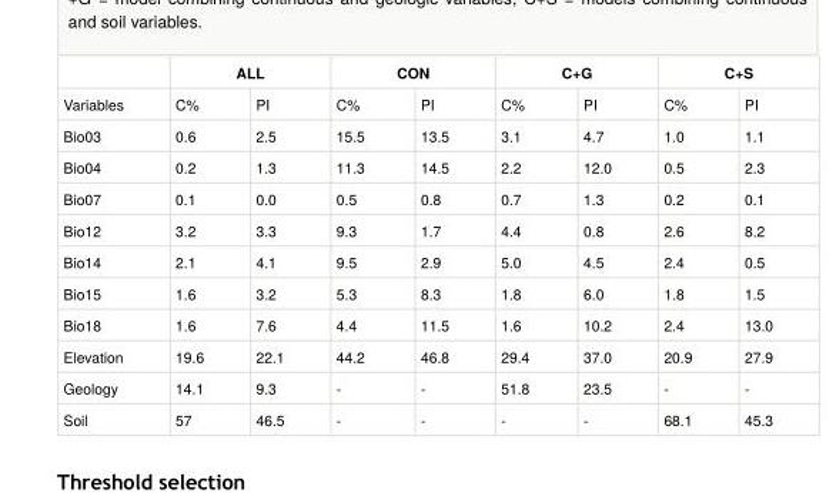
<table><thead><tr><td rowspan="2">Variables</td><td colspan="2">ALL</td><td colspan="2">CON</td><td colspan="2">C+G</td><td colspan="2">C+S</td></tr><tr><td>C%</td><td>PI</td><td>C%</td><td>PI</td><td>C%</td><td>PI</td><td>C%</td><td>PI</td></tr></thead><tbody><tr><td>Bio03</td><td>0.6</td><td>2.5</td><td>15.5</td><td>13.5</td><td>3.1</td><td>4.7</td><td>1.0</td><td>1.1</td></tr><tr><td>Bio04</td><td>0.2</td><td>1.3</td><td>11.3</td><td>14.5</td><td>2.2</td><td>12.0</td><td>0.5</td><td>2.3</td></tr><tr><td>Bio07</td><td>0.1</td><td>0.0</td><td>0.5</td><td>0.8</td><td>0.7</td><td>1.3</td><td>0.2</td><td>0.1</td></tr><tr><td>Bio12</td><td>3.2</td><td>3.3</td><td>9.3</td><td>1.7</td><td>4.4</td><td>0.8</td><td>2.6</td><td>8.2</td></tr><tr><td>Bio14</td><td>2.1</td><td>4.1</td><td>9.5</td><td>2.9</td><td>5.0</td><td>4.5</td><td>2.4</td><td>0.5</td></tr><tr><td>Bio15</td><td>1.6</td><td>3.2</td><td>5.3</td><td>8.3</td><td>1.8</td><td>6.0</td><td>1.8</td><td>1.5</td></tr><tr><td>Bio18</td><td>1.6</td><td>7.6</td><td>4.4</td><td>11.5</td><td>1.6</td><td>10.2</td><td>2.4</td><td>13.0</td></tr><tr><td>Elevation</td><td>19.6</td><td>22.1</td><td>44.2</td><td>46.8</td><td>29.4</td><td>37.0</td><td>20.9</td><td>27.9</td></tr><tr><td>Geology</td><td>14.1</td><td>9.3</td><td>-</td><td>-</td><td>51.8</td><td>23.5</td><td>-</td><td>-</td></tr><tr><td>Soil</td><td>57</td><td>46.5</td><td>-</td><td>-</td><td>-</td><td>-</td><td>68.1</td><td>45.3</td></tr></tbody></table>